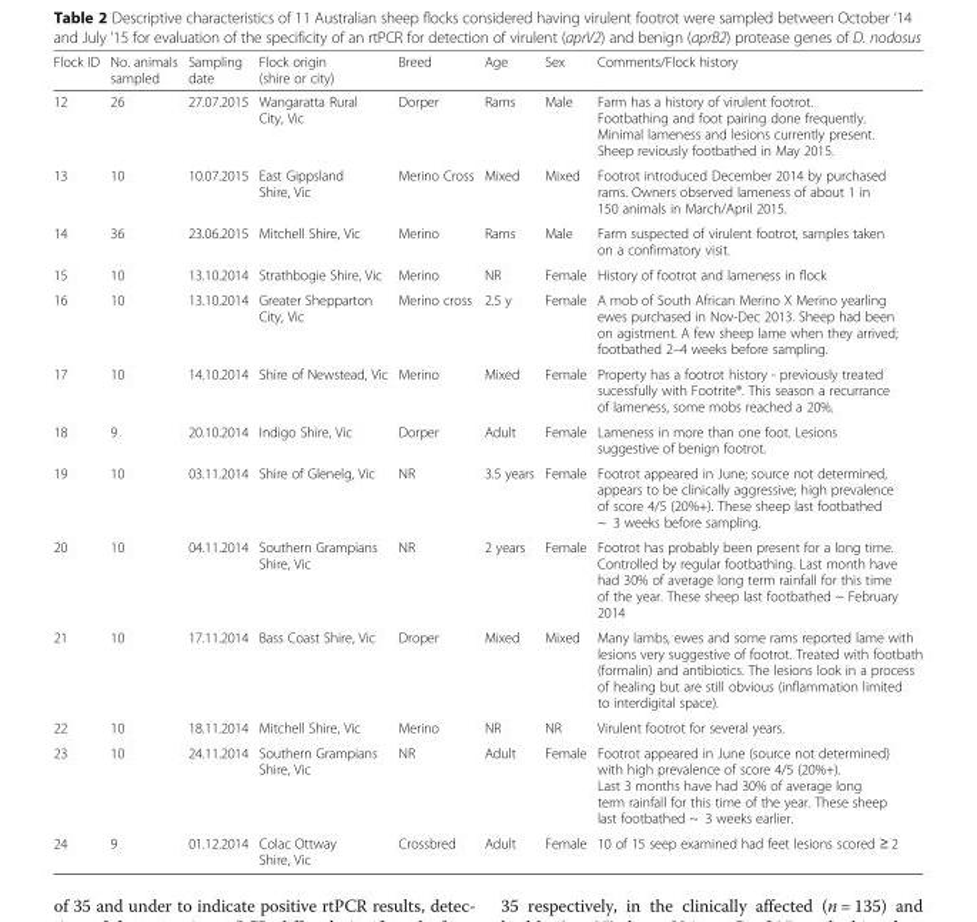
<table><thead><tr><td>Flock ID</td><td>No. animals sampled</td><td>Sampling date</td><td>Flock origin (shire or city)</td><td>Breed</td><td>Age</td><td>Sex</td><td>Comments/Flock history</td></tr></thead><tbody><tr><td>12</td><td>26</td><td>27.07.2015</td><td>Wangaratta Rural City, Vic</td><td>Dorper</td><td>Rams</td><td>Male</td><td>Farm has a history of virulent footrot. Footbathing and foot pairing done frequently. Minimal lameness and lesions currently present. Sheep reviously footbathed in May 2015.</td></tr><tr><td>13</td><td>10</td><td>10.07.2015</td><td>East Gippsland Shire, Vic</td><td>Merino Cross</td><td>Mixed</td><td>Mixed</td><td>Footrot introduced December 2014 by purchased rams. Owners observed lameness of about 1 in 150 animals in March/April 2015.</td></tr><tr><td>14</td><td>36</td><td>23.06.2015</td><td>Mitchell Shire, Vic</td><td>Merino</td><td>Rams</td><td>Male</td><td>Farm suspected of virulent footrot, samples taken on a confirmatory visit.</td></tr><tr><td>15</td><td>10</td><td>13.10.2014</td><td>Strathbogie Shire, Vic</td><td>Merino</td><td>NR</td><td>Female</td><td>History of footrot and lameness in flock</td></tr><tr><td>16</td><td>10</td><td>13.10.2014</td><td>Greater Shepparton City, Vic</td><td>Merino cross</td><td>2.5 y</td><td>Female</td><td>A mob of South African Merino X Merino yearling ewes purchased in Nov-Dec 2013. Sheep had been on agistment. A few sheep lame when they arrived; footbathed 2–4 weeks before sampling.</td></tr><tr><td>17</td><td>10</td><td>14.10.2014</td><td>Shire of Newstead, Vic</td><td>Merino</td><td>Mixed</td><td>Female</td><td>Property has a footrot history - previously treated sucessfully with Footrite®. This season a recurrance of lameness, some mobs reached a 20%.</td></tr><tr><td>18</td><td>9</td><td>20.10.2014</td><td>Indigo Shire, Vic</td><td>Dorper</td><td>Adult</td><td>Female</td><td>Lameness in more than one foot. Lesions suggestive of benign footrot.</td></tr><tr><td>19</td><td>10</td><td>03.11.2014</td><td>Shire of Glenelg, Vic</td><td>NR</td><td>3.5 years</td><td>Female</td><td>Footrot appeared in June; source not determined, appears to be clinically aggressive; high prevalence of score 4/5 (20%+). These sheep last footbathed ~ 3 weeks before sampling.</td></tr><tr><td>20</td><td>10</td><td>04.11.2014</td><td>Southern Grampians Shire, Vic</td><td>NR</td><td>2 years</td><td>Female</td><td>Footrot has probably been present for a long time. Controlled by regular footbathing. Last month have had 30% of average long term rainfall for this time of the year. These sheep last footbathed ~ February 2014</td></tr><tr><td>21</td><td>10</td><td>17.11.2014</td><td>Bass Coast Shire, Vic</td><td>Droper</td><td>Mixed</td><td>Mixed</td><td>Many lambs, ewes and some rams reported lame with lesions very suggestive of footrot. Treated with footbath (formalin) and antibiotics. The lesions look in a process of healing but are still obvious (inflammation limited to interdigital space).</td></tr><tr><td>22</td><td>10</td><td>18.11.2014</td><td>Mitchell Shire, Vic</td><td>Merino</td><td>NR</td><td>NR</td><td>Virulent footrot for several years.</td></tr><tr><td>23</td><td>10</td><td>24.11.2014</td><td>Southern Grampians Shire, Vic</td><td>NR</td><td>Adult</td><td>Female</td><td>Footrot appeared in June (source not determined) with high prevalence of score 4/5 (20%+). Last 3 months have had 30% of average long term rainfall for this time of the year. These sheep last footbathed ~ 3 weeks earlier.</td></tr><tr><td>24</td><td>9</td><td>01.12.2014</td><td>Colac Ottway Shire, Vic</td><td>Crossbred</td><td>Adult</td><td>Female</td><td>10 of 15 seep examined had feet lesions scored ≥ 2</td></tr></tbody></table>